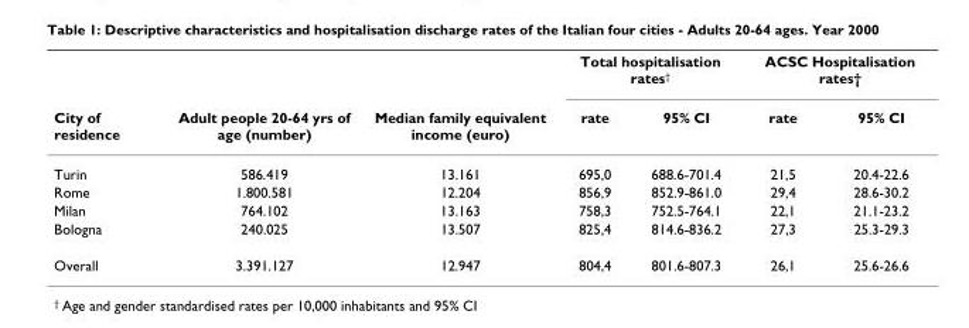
<table><thead><tr><td rowspan="2">City of residence</td><td rowspan="2">Adult people 20-64 yrs of age (number)</td><td rowspan="2">Median family equivalent income (euro)</td><td colspan="2">Total hospitalisation rates<sup>†</sup></td><td colspan="2">ACSC Hospitalisation rates†</td></tr><tr><td>rate</td><td>95% CI</td><td>rate</td><td>95% CI</td></tr></thead><tbody><tr><td>Turin</td><td>586.419</td><td>13.161</td><td>695,0</td><td>688.6-701.4</td><td>21,5</td><td>20.4-22.6</td></tr><tr><td>Rome</td><td>1.800.581</td><td>12.204</td><td>856,9</td><td>852.9-861.0</td><td>29,4</td><td>28.6-30.2</td></tr><tr><td>Milan</td><td>764.102</td><td>13.163</td><td>758,3</td><td>752.5-764.1</td><td>22,1</td><td>21.1-23.2</td></tr><tr><td>Bologna</td><td>240.025</td><td>13.507</td><td>825,4</td><td>814.6-836.2</td><td>27,3</td><td>25.3-29.3</td></tr><tr><td>Overall</td><td>3.391.127</td><td>12.947</td><td>804,4</td><td>801.6-807.3</td><td>26,1</td><td>25.6-26.6</td></tr></tbody></table>